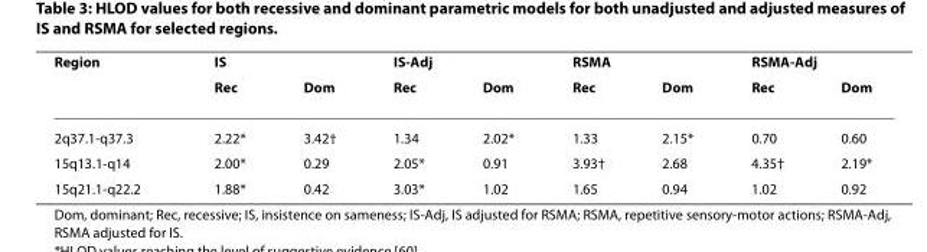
<table><thead><tr><td rowspan="2">Region</td><td colspan="2">IS</td><td colspan="2">IS-Adj</td><td colspan="2">RSMA</td><td colspan="2">RSMA-Adj</td></tr><tr><td>Rec</td><td>Dom</td><td>Rec</td><td>Dom</td><td>Rec</td><td>Dom</td><td>Rec</td><td>Dom</td></tr></thead><tbody><tr><td>2q37.1-q37.3</td><td>2.22*</td><td>3.42†</td><td>1.34</td><td>2.02*</td><td>1.33</td><td>2.15*</td><td>0.70</td><td>0.60</td></tr><tr><td>15q13.1-q14</td><td>2.00*</td><td>0.29</td><td>2.05*</td><td>0.91</td><td>3.93†</td><td>2.68</td><td>4.35†</td><td>2.19*</td></tr><tr><td>15q21.1-q22.2</td><td>1.88*</td><td>0.42</td><td>3.03*</td><td>1.02</td><td>1.65</td><td>0.94</td><td>1.02</td><td>0.92</td></tr></tbody></table>